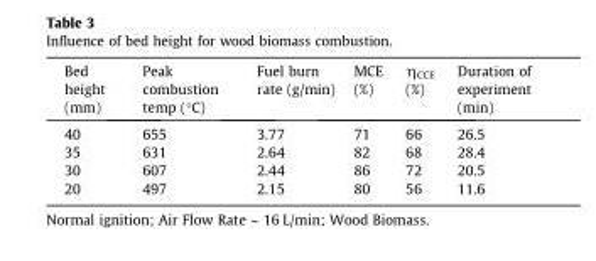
<table><thead><tr><td>Bed height (mm)</td><td>Peak combustion temp (°C)</td><td>Fuel burn rate (g/min)</td><td>MCE (%)</td><td>η<sub>CCE</sub> (%)</td><td>Duration of experiment (min)</td></tr></thead><tbody><tr><td>40</td><td>655</td><td>3.77</td><td>71</td><td>66</td><td>26.5</td></tr><tr><td>35</td><td>631</td><td>2.64</td><td>82</td><td>68</td><td>28.4</td></tr><tr><td>30</td><td>607</td><td>2.44</td><td>86</td><td>72</td><td>20.5</td></tr><tr><td>20</td><td>497</td><td>2.15</td><td>80</td><td>56</td><td>11.6</td></tr></tbody></table>